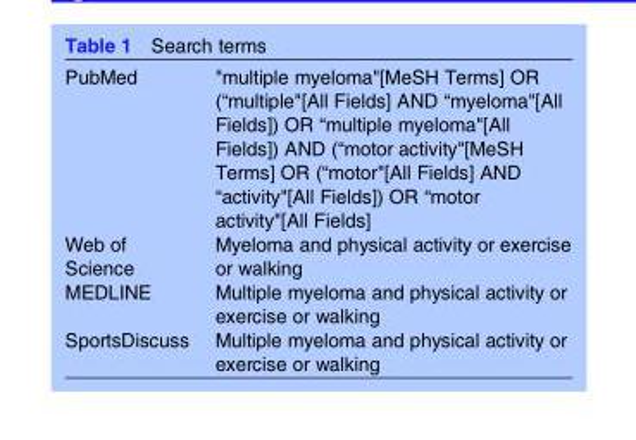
<table><tbody><tr><td>PubMed</td><td>&quot;multiple myeloma&quot;[MeSH Terms] OR (“multiple&quot;[All Fields] AND “myeloma&quot;[All Fields]) OR “multiple myeloma&quot;[All Fields]) AND (“motor activity&quot;[MeSH Terms] OR (“motor&quot;[All Fields] AND “activity&quot;[All Fields]) OR “motor activity&quot;[All Fields]</td></tr><tr><td>Web of Science</td><td>Myeloma and physical activity or exercise or walking</td></tr><tr><td>MEDLINE</td><td>Multiple myeloma and physical activity or exercise or walking</td></tr><tr><td>SportsDiscuss</td><td>Multiple myeloma and physical activity or exercise or walking</td></tr></tbody></table>